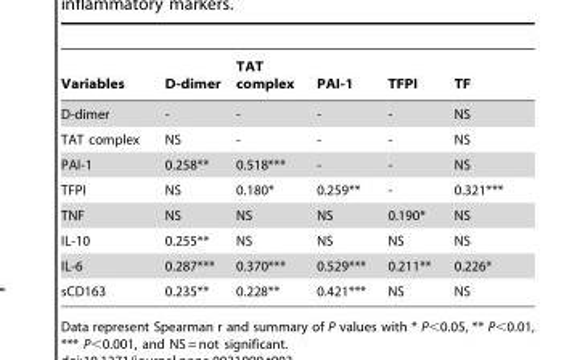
<table><thead><tr><td>Variables</td><td>D-dimer</td><td>TAT complex</td><td>PAI-1</td><td>TFPI</td><td>TF</td></tr></thead><tbody><tr><td>D-dimer</td><td>-</td><td>-</td><td>-</td><td>-</td><td>NS</td></tr><tr><td>TAT complex</td><td>NS</td><td>-</td><td>-</td><td>-</td><td>NS</td></tr><tr><td>PAI-1</td><td>0.258**</td><td>0.518***</td><td>-</td><td>-</td><td>NS</td></tr><tr><td>TFPI</td><td>NS</td><td>0.180*</td><td>0.259**</td><td>-</td><td>0.321***</td></tr><tr><td>TNF</td><td>NS</td><td>NS</td><td>NS</td><td>0.190*</td><td>NS</td></tr><tr><td>IL-10</td><td>0.255**</td><td>NS</td><td>NS</td><td>NS</td><td>NS</td></tr><tr><td>IL-6</td><td>0.287***</td><td>0.370***</td><td>0.529***</td><td>0.211**</td><td>0.226*</td></tr><tr><td>sCD163</td><td>0.235**</td><td>0.228**</td><td>0.421***</td><td>NS</td><td>NS</td></tr></tbody></table>